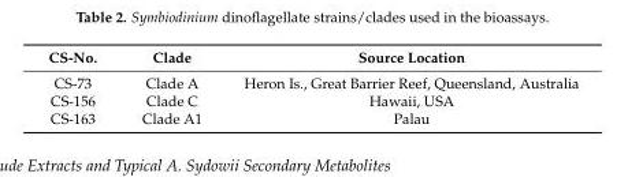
<table><thead><tr><td>CS-No.</td><td>Clade</td><td>Source Location</td></tr></thead><tbody><tr><td>CS-73</td><td>Clade A</td><td>Heron Is., Great Barrier Reef, Queensland, Australia</td></tr><tr><td>CS-156</td><td>Clade C</td><td>Hawaii, USA</td></tr><tr><td>CS-163</td><td>Clade A1</td><td>Palau</td></tr></tbody></table>